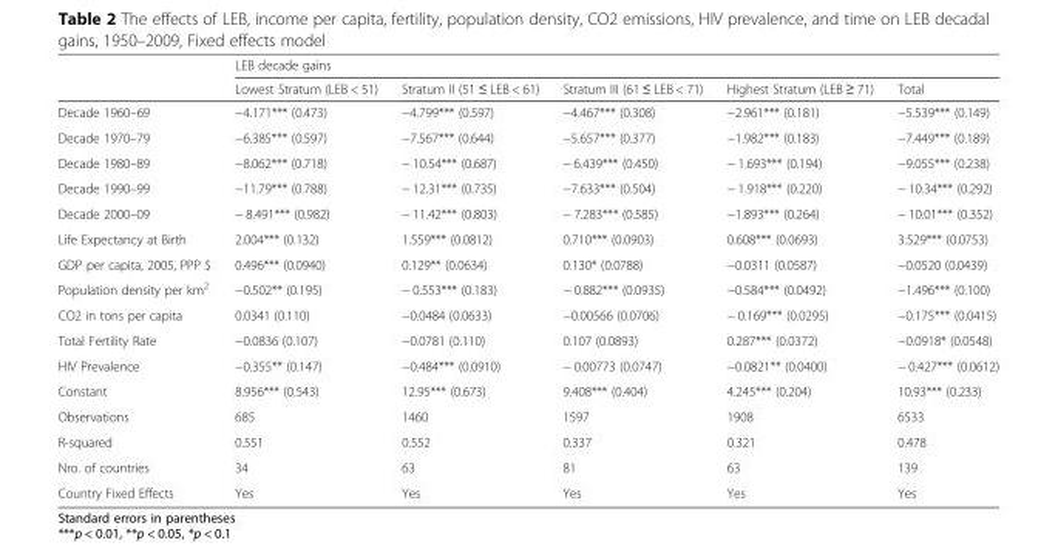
<table><thead><tr><td rowspan="2"></td><td colspan="5">LEB decade gains</td></tr><tr><td>Lowest Stratum (LEB &lt; 51)</td><td>Stratum II (51 ≤ LEB &lt; 61)</td><td>Stratum III (61 ≤ LEB &lt; 71)</td><td>Highest Stratum (LEB ≥ 71)</td><td>Total</td></tr></thead><tbody><tr><td>Decade 1960–69</td><td>−4.171*** (0.473)</td><td>−4.799*** (0.597)</td><td>−4.467*** (0.308)</td><td>−2.961*** (0.181)</td><td>−5.539*** (0.149)</td></tr><tr><td>Decade 1970–79</td><td>−6.385*** (0.597)</td><td>−7.567*** (0.644)</td><td>−5.657*** (0.377)</td><td>−1.982*** (0.183)</td><td>−7.449*** (0.189)</td></tr><tr><td>Decade 1980–89</td><td>−8.062*** (0.718)</td><td>− 10.54*** (0.687)</td><td>− 6.439*** (0.450)</td><td>− 1.693*** (0.194)</td><td>−9.055*** (0.238)</td></tr><tr><td>Decade 1990–99</td><td>−11.79*** (0.788)</td><td>− 12.31*** (0.735)</td><td>−7.633*** (0.504)</td><td>− 1.918*** (0.220)</td><td>− 10.34*** (0.292)</td></tr><tr><td>Decade 2000–09</td><td>− 8.491*** (0.982)</td><td>− 11.42*** (0.803)</td><td>− 7.283*** (0.585)</td><td>−1.893*** (0.264)</td><td>− 10.01*** (0.352)</td></tr><tr><td>Life Expectancy at Birth</td><td>2.004*** (0.132)</td><td>1.559*** (0.0812)</td><td>0.710*** (0.0903)</td><td>0.608*** (0.0693)</td><td>3.529*** (0.0753)</td></tr><tr><td>GDP per capita, 2005, PPP $</td><td>0.496*** (0.0940)</td><td>0.129** (0.0634)</td><td>0.130* (0.0788)</td><td>−0.0311 (0.0587)</td><td>−0.0520 (0.0439)</td></tr><tr><td>Population density per km<sup>2</sup></td><td>−0.502** (0.195)</td><td>− 0.553*** (0.183)</td><td>− 0.882*** (0.0935)</td><td>−0.584*** (0.0492)</td><td>−1.496*** (0.100)</td></tr><tr><td>CO2 in tons per capita</td><td>0.0341 (0.110)</td><td>−0.0484 (0.0633)</td><td>−0.00566 (0.0706)</td><td>− 0.169*** (0.0295)</td><td>−0.175*** (0.0415)</td></tr><tr><td>Total Fertility Rate</td><td>−0.0836 (0.107)</td><td>−0.0781 (0.110)</td><td>0.107 (0.0893)</td><td>0.287*** (0.0372)</td><td>−0.0918* (0.0548)</td></tr><tr><td>HIV Prevalence</td><td>−0.355** (0.147)</td><td>−0.484*** (0.0910)</td><td>− 0.00773 (0.0747)</td><td>−0.0821** (0.0400)</td><td>− 0.427*** (0.0612)</td></tr><tr><td>Constant</td><td>8.956*** (0.543)</td><td>12.95*** (0.673)</td><td>9.408*** (0.404)</td><td>4.245*** (0.204)</td><td>10.93*** (0.233)</td></tr><tr><td>Observations</td><td>685</td><td>1460</td><td>1597</td><td>1908</td><td>6533</td></tr><tr><td>R-squared</td><td>0.551</td><td>0.552</td><td>0.337</td><td>0.321</td><td>0.478</td></tr><tr><td>Nro. of countries</td><td>34</td><td>63</td><td>81</td><td>63</td><td>139</td></tr><tr><td>Country Fixed Effects</td><td>Yes</td><td>Yes</td><td>Yes</td><td>Yes</td><td>Yes</td></tr></tbody></table>